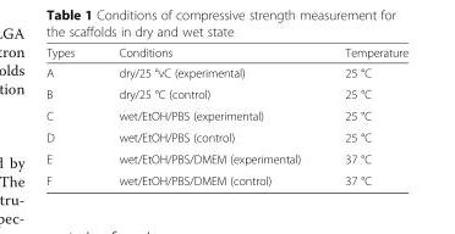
<table><thead><tr><td>Types</td><td>Conditions</td><td>Temperature</td></tr></thead><tbody><tr><td>A</td><td>dry/25 °vC (experimental)</td><td>25 °C</td></tr><tr><td>B</td><td>dry/25 °C (control)</td><td>25 °C</td></tr><tr><td>C</td><td>wet/EtOH/PBS (experimental)</td><td>25 °C</td></tr><tr><td>D</td><td>wet/EtOH/PBS (control)</td><td>25 °C</td></tr><tr><td>E</td><td>wet/EtOH/PBS/DMEM (experimental)</td><td>37 °C</td></tr><tr><td>F</td><td>wet/EtOH/PBS/DMEM (control)</td><td>37 °C</td></tr></tbody></table>